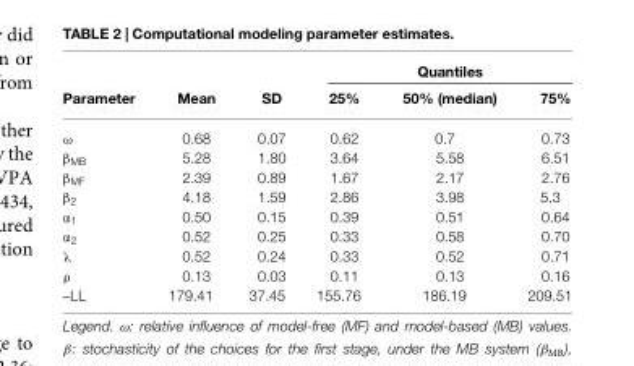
<table><thead><tr><td rowspan="2">Parameter</td><td rowspan="2">Mean</td><td rowspan="2">SD</td><td colspan="3">Quantiles</td></tr><tr><td>25%</td><td>50% (median)</td><td>75%</td></tr></thead><tbody><tr><td>ω</td><td>0.68</td><td>0.07</td><td>0.62</td><td>0.7</td><td>0.73</td></tr><tr><td>β<sub>MB</sub></td><td>5.28</td><td>1.80</td><td>3.64</td><td>5.58</td><td>6.51</td></tr><tr><td>β<sub>MF</sub></td><td>2.39</td><td>0.89</td><td>1.67</td><td>2.17</td><td>2.76</td></tr><tr><td>β<sub>2</sub></td><td>4.18</td><td>1.59</td><td>2.86</td><td>3.98</td><td>5.3</td></tr><tr><td>α<sub>1</sub></td><td>0.50</td><td>0.15</td><td>0.39</td><td>0.51</td><td>0.64</td></tr><tr><td>α<sub>2</sub></td><td>0.52</td><td>0.25</td><td>0.33</td><td>0.58</td><td>0.70</td></tr><tr><td>λ</td><td>0.52</td><td>0.24</td><td>0.33</td><td>0.52</td><td>0.71</td></tr><tr><td>ρ</td><td>0.13</td><td>0.03</td><td>0.11</td><td>0.13</td><td>0.16</td></tr><tr><td>–LL</td><td>179.41</td><td>37.45</td><td>155.76</td><td>186.19</td><td>209.51</td></tr></tbody></table>